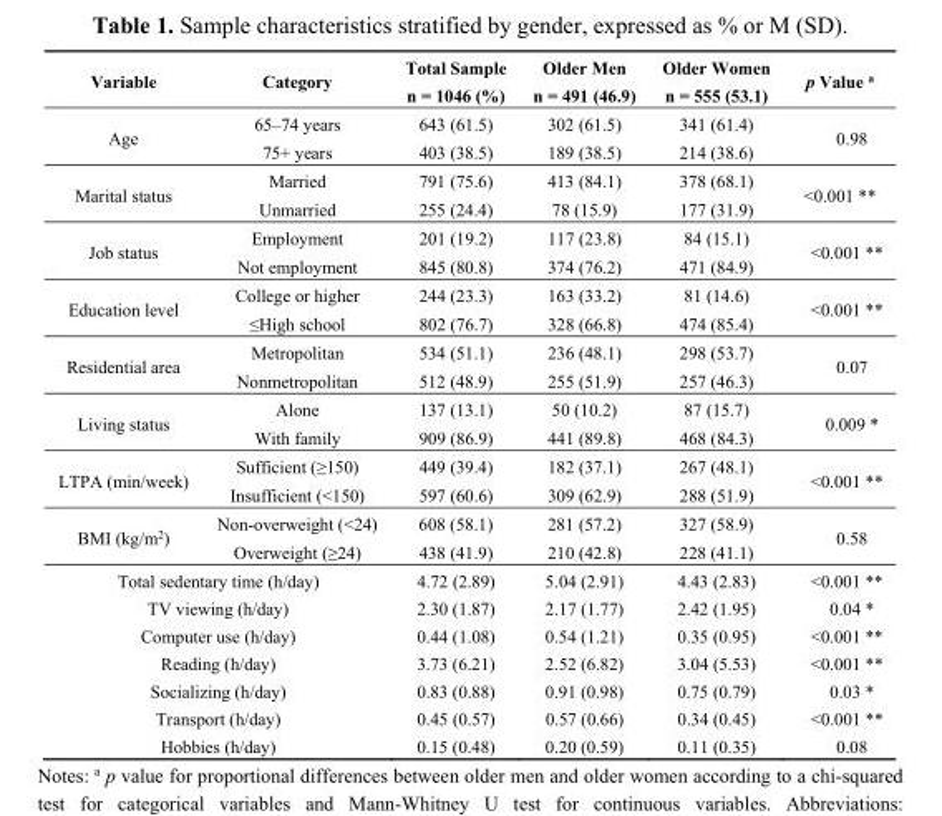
<table><thead><tr><td>Variable</td><td>Category</td><td>Total Sample n = 1046 (%)</td><td>Older Men n = 491 (46.9)</td><td>Older Women n = 555 (53.1)</td><td>p Value <sup>a</sup></td></tr></thead><tbody><tr><td rowspan="2">Age</td><td>65–74 years</td><td>643 (61.5)</td><td>302 (61.5)</td><td>341 (61.4)</td><td rowspan="2">0.98</td></tr><tr><td>75+ years</td><td>403 (38.5)</td><td>189 (38.5)</td><td>214 (38.6)</td></tr><tr><td rowspan="2">Marital status</td><td>Married</td><td>791 (75.6)</td><td>413 (84.1)</td><td>378 (68.1)</td><td rowspan="2">&lt;0.001 **</td></tr><tr><td>Unmarried</td><td>255 (24.4)</td><td>78 (15.9)</td><td>177 (31.9)</td></tr><tr><td rowspan="2">Job status</td><td>Employment</td><td>201 (19.2)</td><td>117 (23.8)</td><td>84 (15.1)</td><td rowspan="2">&lt;0.001 **</td></tr><tr><td>Not employment</td><td>845 (80.8)</td><td>374 (76.2)</td><td>471 (84.9)</td></tr><tr><td rowspan="2">Education level</td><td>College or higher</td><td>244 (23.3)</td><td>163 (33.2)</td><td>81 (14.6)</td><td rowspan="2">&lt;0.001 **</td></tr><tr><td>≤High school</td><td>802 (76.7)</td><td>328 (66.8)</td><td>474 (85.4)</td></tr><tr><td rowspan="2">Residential area</td><td>Metropolitan</td><td>534 (51.1)</td><td>236 (48.1)</td><td>298 (53.7)</td><td rowspan="2">0.07</td></tr><tr><td>Nonmetropolitan</td><td>512 (48.9)</td><td>255 (51.9)</td><td>257 (46.3)</td></tr><tr><td rowspan="2">Living status</td><td>Alone</td><td>137 (13.1)</td><td>50 (10.2)</td><td>87 (15.7)</td><td rowspan="2">0.009 *</td></tr><tr><td>With family</td><td>909 (86.9)</td><td>441 (89.8)</td><td>468 (84.3)</td></tr><tr><td rowspan="2">LTPA (min/week)</td><td>Sufficient (≥150)</td><td>449 (39.4)</td><td>182 (37.1)</td><td>267 (48.1)</td><td rowspan="2">&lt;0.001 **</td></tr><tr><td>Insufficient (&lt;150)</td><td>597 (60.6)</td><td>309 (62.9)</td><td>288 (51.9)</td></tr><tr><td rowspan="2">BMI (kg/m<sup>2</sup>)</td><td>Non-overweight (&lt;24)</td><td>608 (58.1)</td><td>281 (57.2)</td><td>327 (58.9)</td><td rowspan="2">0.58</td></tr><tr><td>Overweight (≥24)</td><td>438 (41.9)</td><td>210 (42.8)</td><td>228 (41.1)</td></tr><tr><td colspan="2">Total sedentary time (h/day)</td><td>4.72 (2.89)</td><td>5.04 (2.91)</td><td>4.43 (2.83)</td><td>&lt;0.001 **</td></tr><tr><td colspan="2">TV viewing (h/day)</td><td>2.30 (1.87)</td><td>2.17 (1.77)</td><td>2.42 (1.95)</td><td>0.04 *</td></tr><tr><td colspan="2">Computer use (h/day)</td><td>0.44 (1.08)</td><td>0.54 (1.21)</td><td>0.35 (0.95)</td><td>&lt;0.001 **</td></tr><tr><td colspan="2">Reading (h/day)</td><td>3.73 (6.21)</td><td>2.52 (6.82)</td><td>3.04 (5.53)</td><td>&lt;0.001 **</td></tr><tr><td colspan="2">Socializing (h/day)</td><td>0.83 (0.88)</td><td>0.91 (0.98)</td><td>0.75 (0.79)</td><td>0.03 *</td></tr><tr><td colspan="2">Transport (h/day)</td><td>0.45 (0.57)</td><td>0.57 (0.66)</td><td>0.34 (0.45)</td><td>&lt;0.001 **</td></tr><tr><td colspan="2">Hobbies (h/day)</td><td>0.15 (0.48)</td><td>0.20 (0.59)</td><td>0.11 (0.35)</td><td>0.08</td></tr></tbody></table>